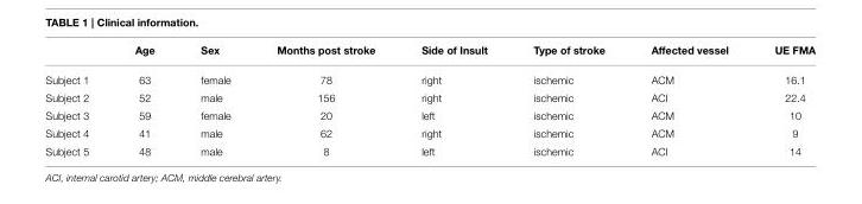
<table><thead><tr><td></td><td>Age</td><td>Sex</td><td>Months post stroke</td><td>Side of Insult</td><td>Type of stroke</td><td>Affected vessel</td><td>UE FMA</td></tr></thead><tbody><tr><td>Subject 1</td><td>63</td><td>female</td><td>78</td><td>right</td><td>ischemic</td><td>ACM</td><td>16.1</td></tr><tr><td>Subject 2</td><td>52</td><td>male</td><td>156</td><td>right</td><td>ischemic</td><td>ACI</td><td>22.4</td></tr><tr><td>Subject 3</td><td>59</td><td>female</td><td>20</td><td>left</td><td>ischemic</td><td>ACM</td><td>10</td></tr><tr><td>Subject 4</td><td>41</td><td>male</td><td>62</td><td>right</td><td>ischemic</td><td>ACM</td><td>9</td></tr><tr><td>Subject 5</td><td>48</td><td>male</td><td>8</td><td>left</td><td>ischemic</td><td>ACI</td><td>14</td></tr></tbody></table>